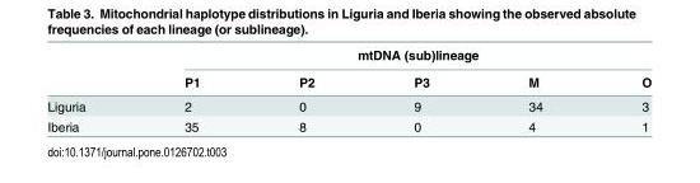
<table><thead><tr><td rowspan="2"></td><td colspan="5">mtDNA (sub)lineage</td></tr><tr><td>P1</td><td>P2</td><td>P3</td><td>M</td><td>O</td></tr></thead><tbody><tr><td>Liguria</td><td>2</td><td>0</td><td>9</td><td>34</td><td>3</td></tr><tr><td>Iberia</td><td>35</td><td>8</td><td>0</td><td>4</td><td>1</td></tr></tbody></table>